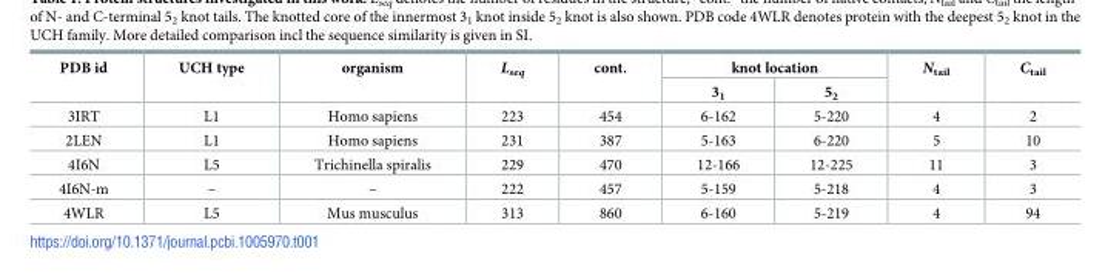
<table><thead><tr><td rowspan="2">PDB id</td><td rowspan="2">UCH type</td><td rowspan="2">organism</td><td rowspan="2">L<sub>seq</sub></td><td rowspan="2">cont.</td><td colspan="2">knot location</td><td rowspan="2">N<sub>tail</sub></td><td rowspan="2">C<sub>tail</sub></td></tr><tr><td>3<sub>1</sub></td><td>5<sub>2</sub></td></tr></thead><tbody><tr><td>3IRT</td><td>L1</td><td>Homo sapiens</td><td>223</td><td>454</td><td>6-162</td><td>5-220</td><td>4</td><td>2</td></tr><tr><td>2LEN</td><td>L1</td><td>Homo sapiens</td><td>231</td><td>387</td><td>5-163</td><td>6-220</td><td>5</td><td>10</td></tr><tr><td>4I6N</td><td>L5</td><td>Trichinella spiralis</td><td>229</td><td>470</td><td>12-166</td><td>12-225</td><td>11</td><td>3</td></tr><tr><td>4I6N-m</td><td>–</td><td>–</td><td>222</td><td>457</td><td>5-159</td><td>5-218</td><td>4</td><td>3</td></tr><tr><td>4WLR</td><td>L5</td><td>Mus musculus</td><td>313</td><td>860</td><td>6-160</td><td>5-219</td><td>4</td><td>94</td></tr></tbody></table>